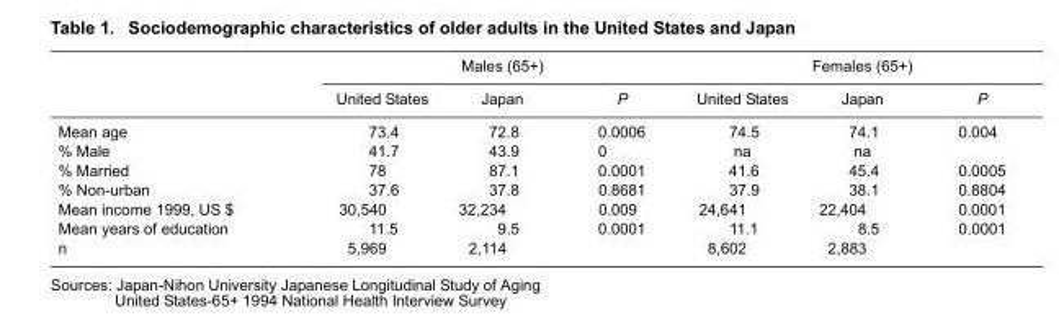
<table><thead><tr><td rowspan="2"></td><td colspan="3">Males (65+)</td><td colspan="3">Females (65+)</td></tr><tr><td>United States</td><td>Japan</td><td>P</td><td>United States</td><td>Japan</td><td>P</td></tr></thead><tbody><tr><td>Mean age</td><td>73.4</td><td>72.8</td><td>0.0006</td><td>74.5</td><td>74.1</td><td>0.004</td></tr><tr><td>% Male</td><td>41.7</td><td>43.9</td><td>0</td><td>na</td><td>na</td><td></td></tr><tr><td>% Married</td><td>78</td><td>87.1</td><td>0.0001</td><td>41.6</td><td>45.4</td><td>0.0005</td></tr><tr><td>% Non-urban</td><td>37.6</td><td>37.8</td><td>0.8681</td><td>37.9</td><td>38.1</td><td>0.8804</td></tr><tr><td>Mean income 1999, US $</td><td>30,540</td><td>32,234</td><td>0.009</td><td>24,641</td><td>22,404</td><td>0.0001</td></tr><tr><td>Mean years of education</td><td>11.5</td><td>9.5</td><td>0.0001</td><td>11.1</td><td>8.5</td><td>0.0001</td></tr><tr><td>n</td><td>5,969</td><td>2,114</td><td></td><td>8,602</td><td>2,883</td><td></td></tr></tbody></table>